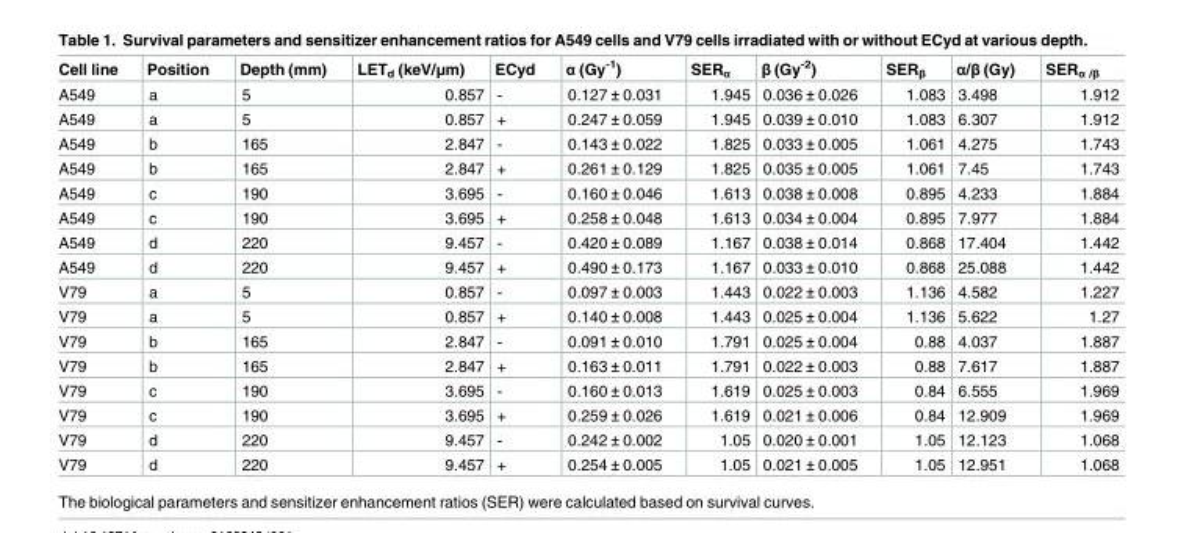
<table><thead><tr><td>Cell line</td><td>Position</td><td>Depth (mm)</td><td>LET<sub>d</sub> (keV/μm)</td><td>ECyd</td><td>α (Gy<sup>-1</sup>)</td><td>SER<sub>α</sub></td><td>β (Gy<sup>-2</sup>)</td><td>SER<sub>β</sub></td><td>α/β (Gy)</td><td>SER<sub>α /β</sub></td></tr></thead><tbody><tr><td>A549</td><td>a</td><td>5</td><td>0.857</td><td>-</td><td>0.127 ± 0.031</td><td>1.945</td><td>0.036 ± 0.026</td><td>1.083</td><td>3.498</td><td>1.912</td></tr><tr><td>A549</td><td>a</td><td>5</td><td>0.857</td><td>+</td><td>0.247 ± 0.059</td><td>1.945</td><td>0.039 ± 0.010</td><td>1.083</td><td>6.307</td><td>1.912</td></tr><tr><td>A549</td><td>b</td><td>165</td><td>2.847</td><td>-</td><td>0.143 ± 0.022</td><td>1.825</td><td>0.033 ± 0.005</td><td>1.061</td><td>4.275</td><td>1.743</td></tr><tr><td>A549</td><td>b</td><td>165</td><td>2.847</td><td>+</td><td>0.261 ± 0.129</td><td>1.825</td><td>0.035 ± 0.005</td><td>1.061</td><td>7.45</td><td>1.743</td></tr><tr><td>A549</td><td>c</td><td>190</td><td>3.695</td><td>-</td><td>0.160 ± 0.046</td><td>1.613</td><td>0.038 ± 0.008</td><td>0.895</td><td>4.233</td><td>1.884</td></tr><tr><td>A549</td><td>c</td><td>190</td><td>3.695</td><td>+</td><td>0.258 ± 0.048</td><td>1.613</td><td>0.034 ± 0.004</td><td>0.895</td><td>7.977</td><td>1.884</td></tr><tr><td>A549</td><td>d</td><td>220</td><td>9.457</td><td>-</td><td>0.420 ± 0.089</td><td>1.167</td><td>0.038 ± 0.014</td><td>0.868</td><td>17.404</td><td>1.442</td></tr><tr><td>A549</td><td>d</td><td>220</td><td>9.457</td><td>+</td><td>0.490 ± 0.173</td><td>1.167</td><td>0.033 ± 0.010</td><td>0.868</td><td>25.088</td><td>1.442</td></tr><tr><td>V79</td><td>a</td><td>5</td><td>0.857</td><td>-</td><td>0.097 ± 0.003</td><td>1.443</td><td>0.022 ± 0.003</td><td>1.136</td><td>4.582</td><td>1.227</td></tr><tr><td>V79</td><td>a</td><td>5</td><td>0.857</td><td>+</td><td>0.140 ± 0.008</td><td>1.443</td><td>0.025 ± 0.004</td><td>1.136</td><td>5.622</td><td>1.27</td></tr><tr><td>V79</td><td>b</td><td>165</td><td>2.847</td><td>-</td><td>0.091 ± 0.010</td><td>1.791</td><td>0.025 ± 0.004</td><td>0.88</td><td>4.037</td><td>1.887</td></tr><tr><td>V79</td><td>b</td><td>165</td><td>2.847</td><td>+</td><td>0.163 ± 0.011</td><td>1.791</td><td>0.022 ± 0.003</td><td>0.88</td><td>7.617</td><td>1.887</td></tr><tr><td>V79</td><td>c</td><td>190</td><td>3.695</td><td>-</td><td>0.160 ± 0.013</td><td>1.619</td><td>0.025 ± 0.003</td><td>0.84</td><td>6.555</td><td>1.969</td></tr><tr><td>V79</td><td>c</td><td>190</td><td>3.695</td><td>+</td><td>0.259 ± 0.026</td><td>1.619</td><td>0.021 ± 0.006</td><td>0.84</td><td>12.909</td><td>1.969</td></tr><tr><td>V79</td><td>d</td><td>220</td><td>9.457</td><td>-</td><td>0.242 ± 0.002</td><td>1.05</td><td>0.020 ± 0.001</td><td>1.05</td><td>12.123</td><td>1.068</td></tr><tr><td>V79</td><td>d</td><td>220</td><td>9.457</td><td>+</td><td>0.254 ± 0.005</td><td>1.05</td><td>0.021 ± 0.005</td><td>1.05</td><td>12.951</td><td>1.068</td></tr></tbody></table>